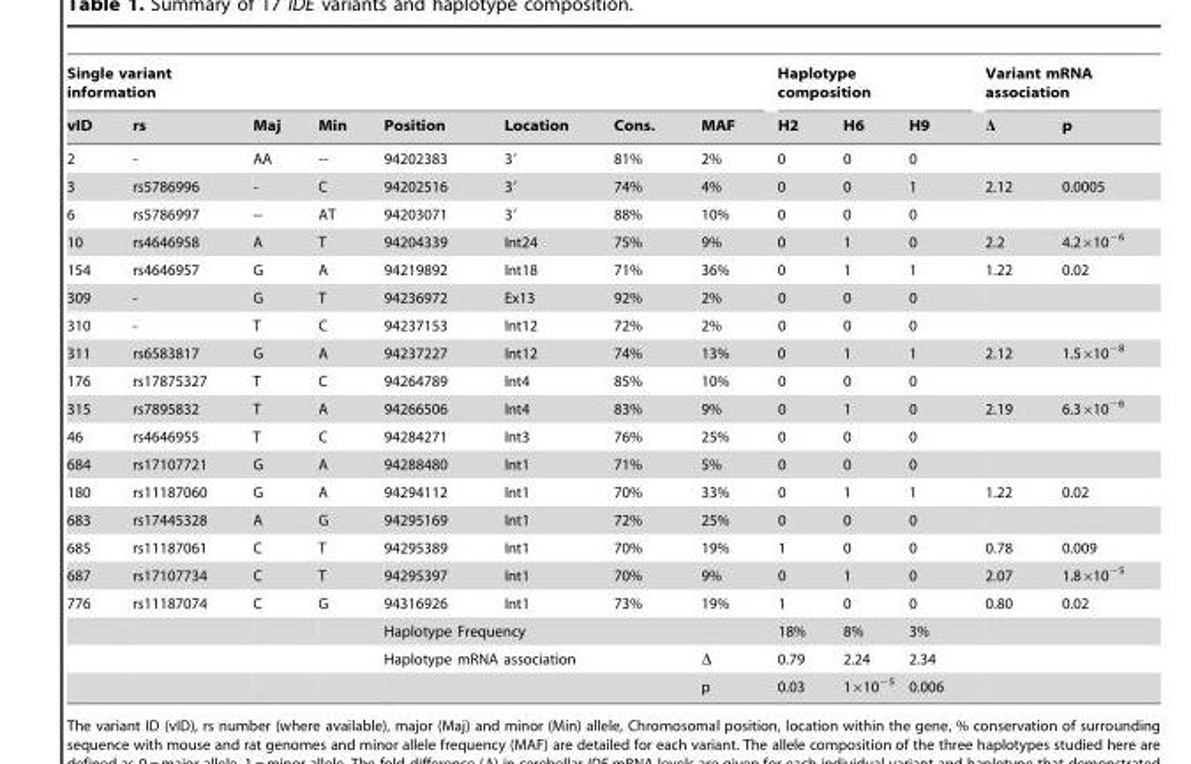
<table><thead><tr><td colspan="8">Single variant information</td><td colspan="3">Haplotype composition</td><td colspan="2">Variant mRNA association</td></tr><tr><td>vID</td><td>rs</td><td>Maj</td><td>Min</td><td>Position</td><td>Location</td><td>Cons.</td><td>MAF</td><td>H2</td><td>H6</td><td>H9</td><td>Δ</td><td>p</td></tr></thead><tbody><tr><td>2</td><td>-</td><td>AA</td><td>--</td><td>94202383</td><td>3′</td><td>81%</td><td>2%</td><td>0</td><td>0</td><td>0</td><td></td><td></td></tr><tr><td>3</td><td>rs5786996</td><td>-</td><td>C</td><td>94202516</td><td>3′</td><td>74%</td><td>4%</td><td>0</td><td>0</td><td>1</td><td>2.12</td><td>0.0005</td></tr><tr><td>6</td><td>rs5786997</td><td>--</td><td>AT</td><td>94203071</td><td>3′</td><td>88%</td><td>10%</td><td>0</td><td>0</td><td>0</td><td></td><td></td></tr><tr><td>10</td><td>rs4646958</td><td>A</td><td>T</td><td>94204339</td><td>Int24</td><td>75%</td><td>9%</td><td>0</td><td>1</td><td>0</td><td>2.2</td><td>4.2×10<sup>−6</sup></td></tr><tr><td>154</td><td>rs4646957</td><td>G</td><td>A</td><td>94219892</td><td>Int18</td><td>71%</td><td>36%</td><td>0</td><td>1</td><td>1</td><td>1.22</td><td>0.02</td></tr><tr><td>309</td><td>-</td><td>G</td><td>T</td><td>94236972</td><td>Ex13</td><td>92%</td><td>2%</td><td>0</td><td>0</td><td>0</td><td></td><td></td></tr><tr><td>310</td><td>-</td><td>T</td><td>C</td><td>94237153</td><td>Int12</td><td>72%</td><td>2%</td><td>0</td><td>0</td><td>0</td><td></td><td></td></tr><tr><td>311</td><td>rs6583817</td><td>G</td><td>A</td><td>94237227</td><td>Int12</td><td>74%</td><td>13%</td><td>0</td><td>1</td><td>1</td><td>2.12</td><td>1.5×10<sup>−8</sup></td></tr><tr><td>176</td><td>rs17875327</td><td>T</td><td>C</td><td>94264789</td><td>Int4</td><td>85%</td><td>10%</td><td>0</td><td>0</td><td>0</td><td></td><td></td></tr><tr><td>315</td><td>rs7895832</td><td>T</td><td>A</td><td>94266506</td><td>Int4</td><td>83%</td><td>9%</td><td>0</td><td>1</td><td>0</td><td>2.19</td><td>6.3×10<sup>−6</sup></td></tr><tr><td>46</td><td>rs4646955</td><td>T</td><td>C</td><td>94284271</td><td>Int3</td><td>76%</td><td>25%</td><td>0</td><td>0</td><td>0</td><td></td><td></td></tr><tr><td>684</td><td>rs17107721</td><td>G</td><td>A</td><td>94288480</td><td>Int1</td><td>71%</td><td>5%</td><td>0</td><td>0</td><td>0</td><td></td><td></td></tr><tr><td>180</td><td>rs11187060</td><td>G</td><td>A</td><td>94294112</td><td>Int1</td><td>70%</td><td>33%</td><td>0</td><td>1</td><td>1</td><td>1.22</td><td>0.02</td></tr><tr><td>683</td><td>rs17445328</td><td>A</td><td>G</td><td>94295169</td><td>Int1</td><td>72%</td><td>25%</td><td>0</td><td>0</td><td>0</td><td></td><td></td></tr><tr><td>685</td><td>rs11187061</td><td>C</td><td>T</td><td>94295389</td><td>Int1</td><td>70%</td><td>19%</td><td>1</td><td>0</td><td>0</td><td>0.78</td><td>0.009</td></tr><tr><td>687</td><td>rs17107734</td><td>C</td><td>T</td><td>94295397</td><td>Int1</td><td>70%</td><td>9%</td><td>0</td><td>1</td><td>0</td><td>2.07</td><td>1.8×10<sup>−5</sup></td></tr><tr><td rowspan="4">776</td><td>rs11187074</td><td>C</td><td>G</td><td>94316926</td><td>Int1</td><td>73%</td><td>19%</td><td>1</td><td>0</td><td>0</td><td>0.80</td><td>0.02</td></tr><tr><td></td><td></td><td></td><td colspan="4">Haplotype Frequency</td><td>18%</td><td>8%</td><td>3%</td><td></td><td></td></tr><tr><td></td><td></td><td></td><td colspan="3">Haplotype mRNA association</td><td>Δ</td><td>0.79</td><td>2.24</td><td>2.34</td><td></td><td></td></tr><tr><td></td><td></td><td></td><td colspan="3"></td><td>p</td><td>0.03</td><td>1×10<sup>−5</sup></td><td>0.006</td><td></td><td></td></tr></tbody></table>